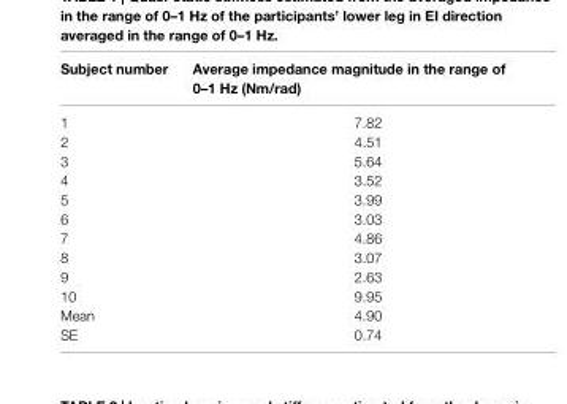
<table><thead><tr><td>subject number</td><td>average impedance magnitude in the range of 0–1 hz (nm/rad)</td></tr></thead><tbody><tr><td>1</td><td>7.82</td></tr><tr><td>2</td><td>4.51</td></tr><tr><td>3</td><td>5.64</td></tr><tr><td>4</td><td>3.52</td></tr><tr><td>5</td><td>3.99</td></tr><tr><td>6</td><td>3.03</td></tr><tr><td>7</td><td>4.86</td></tr><tr><td>8</td><td>3.07</td></tr><tr><td>9</td><td>2.63</td></tr><tr><td>10</td><td>9.95</td></tr><tr><td>Mean</td><td>4.90</td></tr><tr><td>SE</td><td>0.74</td></tr></tbody></table>